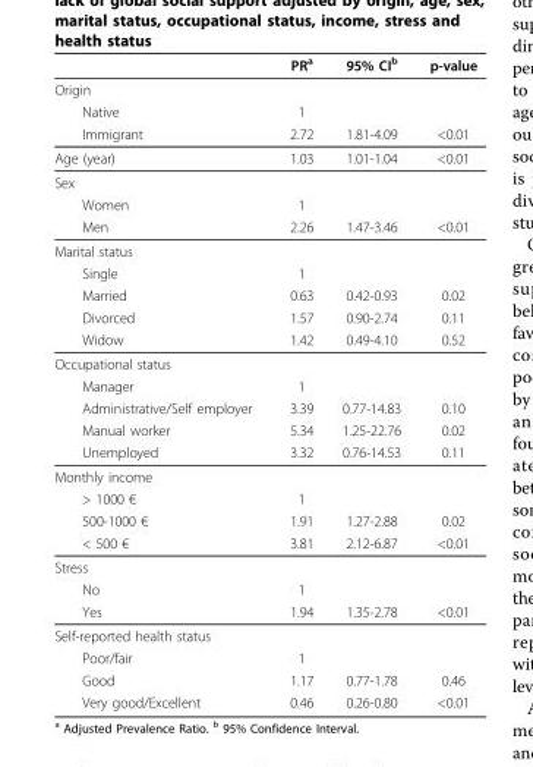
<table><thead><tr><td></td><td>PR<sup>a</sup></td><td>95% CI<sup>b</sup></td><td>p-value</td></tr></thead><tbody><tr><td colspan="4">Origin</td></tr><tr><td>Native</td><td>1</td><td></td><td></td></tr><tr><td>Immigrant</td><td>2.72</td><td>1.81-4.09</td><td>&lt;0.01</td></tr><tr><td>Age (year)</td><td>1.03</td><td>1.01-1.04</td><td>&lt;0.01</td></tr><tr><td colspan="4">Sex</td></tr><tr><td>Women</td><td>1</td><td></td><td></td></tr><tr><td>Men</td><td>2.26</td><td>1.47-3.46</td><td>&lt;0.01</td></tr><tr><td colspan="4">Marital status</td></tr><tr><td>Single</td><td>1</td><td></td><td></td></tr><tr><td>Married</td><td>0.63</td><td>0.42-0.93</td><td>0.02</td></tr><tr><td>Divorced</td><td>1.57</td><td>0.90-2.74</td><td>0.11</td></tr><tr><td>Widow</td><td>1.42</td><td>0.49-4.10</td><td>0.52</td></tr><tr><td colspan="4">Occupational status</td></tr><tr><td>Manager</td><td>1</td><td></td><td></td></tr><tr><td>Administrative/Self employer</td><td>3.39</td><td>0.77-14.83</td><td>0.10</td></tr><tr><td>Manual worker</td><td>5.34</td><td>1.25-22.76</td><td>0.02</td></tr><tr><td>Unemployed</td><td>3.32</td><td>0.76-14.53</td><td>0.11</td></tr><tr><td colspan="4">Monthly income</td></tr><tr><td>&gt; 1000 €</td><td>1</td><td></td><td></td></tr><tr><td>500-1000 €</td><td>1.91</td><td>1.27-2.88</td><td>0.02</td></tr><tr><td>&lt; 500 €</td><td>3.81</td><td>2.12-6.87</td><td>&lt;0.01</td></tr><tr><td colspan="4">Stress</td></tr><tr><td>No</td><td>1</td><td></td><td></td></tr><tr><td>Yes</td><td>1.94</td><td>1.35-2.78</td><td>&lt;0.01</td></tr><tr><td colspan="4">Self-reported health status</td></tr><tr><td>Poor/fair</td><td>1</td><td></td><td></td></tr><tr><td>Good</td><td>1.17</td><td>0.77-1.78</td><td>0.46</td></tr><tr><td>Very good/Excellent</td><td>0.46</td><td>0.26-0.80</td><td>&lt;0.01</td></tr></tbody></table>